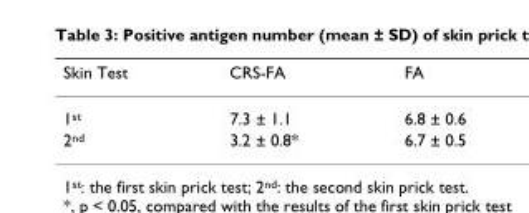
<table><thead><tr><td>Skin Test</td><td>CRS-FA</td><td>FA</td></tr></thead><tbody><tr><td>1st</td><td>7.3 ± 1.1</td><td>6.8 ± 0.6</td></tr><tr><td>2nd</td><td>3.2 ± 0.8*</td><td>6.7 ± 0.5</td></tr></tbody></table>